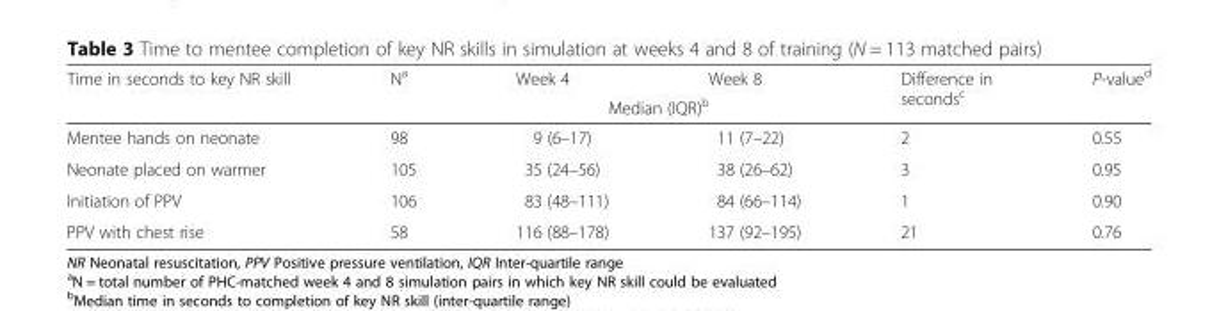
<table><thead><tr><td rowspan="2">Time in seconds to key NR skill</td><td rowspan="2">N<sup>a</sup></td><td>Week 4</td><td>Week 8</td><td rowspan="2">Difference in seconds<sup>c</sup></td><td rowspan="2">P-value<sup>d</sup></td></tr><tr><td colspan="2">Median (IQR)<sup>b</sup></td></tr></thead><tbody><tr><td>Mentee hands on neonate</td><td>98</td><td>9 (6–17)</td><td>11 (7–22)</td><td>2</td><td>0.55</td></tr><tr><td>Neonate placed on warmer</td><td>105</td><td>35 (24–56)</td><td>38 (26–62)</td><td>3</td><td>0.95</td></tr><tr><td>Initiation of PPV</td><td>106</td><td>83 (48–111)</td><td>84 (66–114)</td><td>1</td><td>0.90</td></tr><tr><td>PPV with chest rise</td><td>58</td><td>116 (88–178)</td><td>137 (92–195)</td><td>21</td><td>0.76</td></tr></tbody></table>